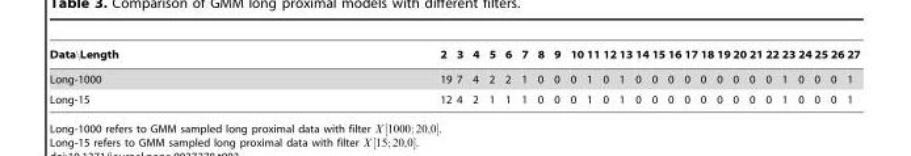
<table><thead><tr><td>Data\Length</td><td>2</td><td>3</td><td>4</td><td>5</td><td>6</td><td>7</td><td>8</td><td>9</td><td>10</td><td>11</td><td>12</td><td>13</td><td>14</td><td>15</td><td>16</td><td>17</td><td>18</td><td>19</td><td>20</td><td>21</td><td>22</td><td>23</td><td>24</td><td>25</td><td>26</td><td>27</td></tr></thead><tbody><tr><td>Long-1000</td><td>19</td><td>7</td><td>4</td><td>2</td><td>2</td><td>1</td><td>0</td><td>0</td><td>0</td><td>1</td><td>0</td><td>1</td><td>0</td><td>0</td><td>0</td><td>0</td><td>0</td><td>0</td><td>0</td><td>0</td><td>0</td><td>1</td><td>0</td><td>0</td><td>0</td><td>1</td></tr><tr><td>Long-15</td><td>12</td><td>4</td><td>2</td><td>1</td><td>1</td><td>1</td><td>0</td><td>0</td><td>0</td><td>1</td><td>0</td><td>1</td><td>0</td><td>0</td><td>0</td><td>0</td><td>0</td><td>0</td><td>0</td><td>0</td><td>0</td><td>1</td><td>0</td><td>0</td><td>0</td><td>1</td></tr></tbody></table>